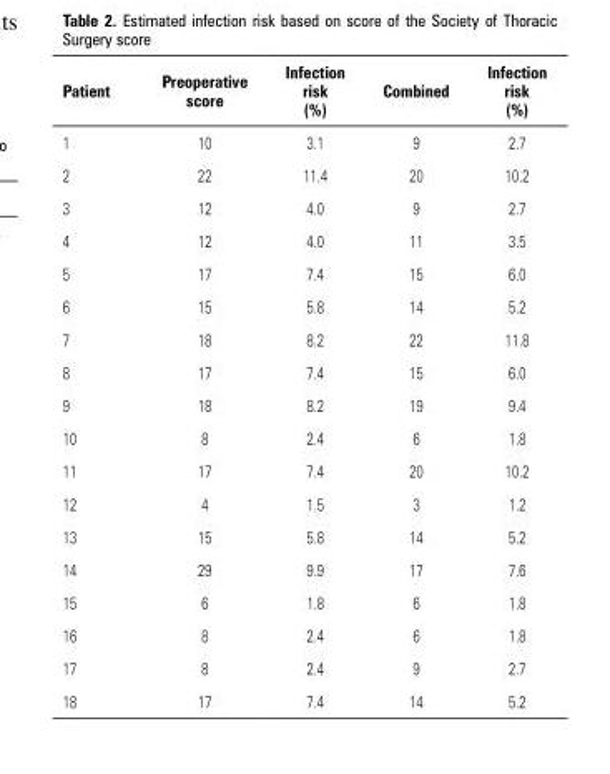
<table><thead><tr><td>Patient</td><td>Preoperative score</td><td>Infection risk (%)</td><td>Combined</td><td>Infection risk (%)</td></tr></thead><tbody><tr><td>1</td><td>10</td><td>3.1</td><td>9</td><td>2.7</td></tr><tr><td>2</td><td>22</td><td>11.4</td><td>20</td><td>10.2</td></tr><tr><td>3</td><td>12</td><td>4.0</td><td>9</td><td>2.7</td></tr><tr><td>4</td><td>12</td><td>4.0</td><td>11</td><td>3.5</td></tr><tr><td>5</td><td>17</td><td>7.4</td><td>15</td><td>6.0</td></tr><tr><td>6</td><td>15</td><td>5.8</td><td>14</td><td>5.2</td></tr><tr><td>7</td><td>18</td><td>8.2</td><td>22</td><td>11.8</td></tr><tr><td>8</td><td>17</td><td>7.4</td><td>15</td><td>6.0</td></tr><tr><td>9</td><td>18</td><td>8.2</td><td>19</td><td>9.4</td></tr><tr><td>10</td><td>8</td><td>2.4</td><td>6</td><td>1.8</td></tr><tr><td>11</td><td>17</td><td>7.4</td><td>20</td><td>10.2</td></tr><tr><td>12</td><td>4</td><td>1.5</td><td>3</td><td>1.2</td></tr><tr><td>13</td><td>15</td><td>5.8</td><td>14</td><td>5.2</td></tr><tr><td>14</td><td>29</td><td>9.9</td><td>17</td><td>7.6</td></tr><tr><td>15</td><td>6</td><td>1.8</td><td>6</td><td>1.8</td></tr><tr><td>16</td><td>8</td><td>2.4</td><td>6</td><td>1.8</td></tr><tr><td>17</td><td>8</td><td>2.4</td><td>9</td><td>2.7</td></tr><tr><td>18</td><td>17</td><td>7.4</td><td>14</td><td>5.2</td></tr></tbody></table>